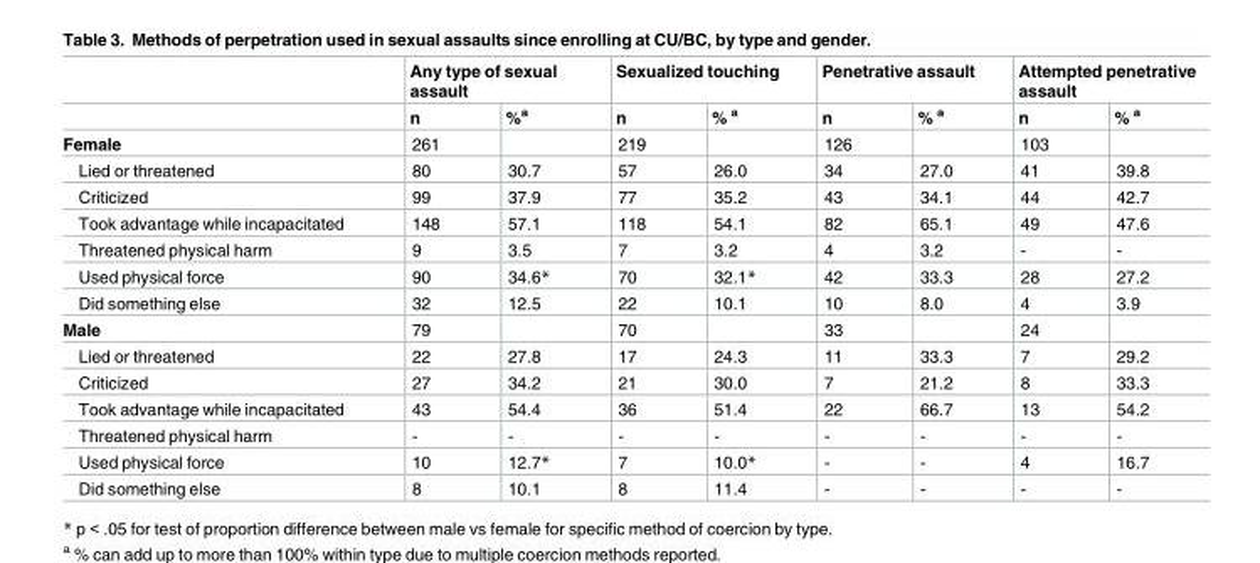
<table><thead><tr><td rowspan="2"></td><td colspan="2">Any type of sexual assault</td><td colspan="2">Sexualized touching</td><td colspan="2">Penetrative assault</td><td colspan="2">Attempted penetrative assault</td></tr><tr><td>n</td><td>%<sup>a</sup></td><td>n</td><td>% <sup>a</sup></td><td>n</td><td>% <sup>a</sup></td><td>n</td><td>% <sup>a</sup></td></tr></thead><tbody><tr><td>Female</td><td>261</td><td></td><td>219</td><td></td><td>126</td><td></td><td>103</td><td></td></tr><tr><td>Lied or threatened</td><td>80</td><td>30.7</td><td>57</td><td>26.0</td><td>34</td><td>27.0</td><td>41</td><td>39.8</td></tr><tr><td>Criticized</td><td>99</td><td>37.9</td><td>77</td><td>35.2</td><td>43</td><td>34.1</td><td>44</td><td>42.7</td></tr><tr><td>Took advantage while incapacitated</td><td>148</td><td>57.1</td><td>118</td><td>54.1</td><td>82</td><td>65.1</td><td>49</td><td>47.6</td></tr><tr><td>Threatened physical harm</td><td>9</td><td>3.5</td><td>7</td><td>3.2</td><td>4</td><td>3.2</td><td>-</td><td>-</td></tr><tr><td>Used physical force</td><td>90</td><td>34.6*</td><td>70</td><td>32.1*</td><td>42</td><td>33.3</td><td>28</td><td>27.2</td></tr><tr><td>Did something else</td><td>32</td><td>12.5</td><td>22</td><td>10.1</td><td>10</td><td>8.0</td><td>4</td><td>3.9</td></tr><tr><td>Male</td><td>79</td><td></td><td>70</td><td></td><td>33</td><td></td><td>24</td><td></td></tr><tr><td>Lied or threatened</td><td>22</td><td>27.8</td><td>17</td><td>24.3</td><td>11</td><td>33.3</td><td>7</td><td>29.2</td></tr><tr><td>Criticized</td><td>27</td><td>34.2</td><td>21</td><td>30.0</td><td>7</td><td>21.2</td><td>8</td><td>33.3</td></tr><tr><td>Took advantage while incapacitated</td><td>43</td><td>54.4</td><td>36</td><td>51.4</td><td>22</td><td>66.7</td><td>13</td><td>54.2</td></tr><tr><td>Threatened physical harm</td><td>-</td><td>-</td><td>-</td><td>-</td><td>-</td><td>-</td><td>-</td><td>-</td></tr><tr><td>Used physical force</td><td>10</td><td>12.7*</td><td>7</td><td>10.0*</td><td>-</td><td>-</td><td>4</td><td>16.7</td></tr><tr><td>Did something else</td><td>8</td><td>10.1</td><td>8</td><td>11.4</td><td>-</td><td>-</td><td>-</td><td>-</td></tr></tbody></table>